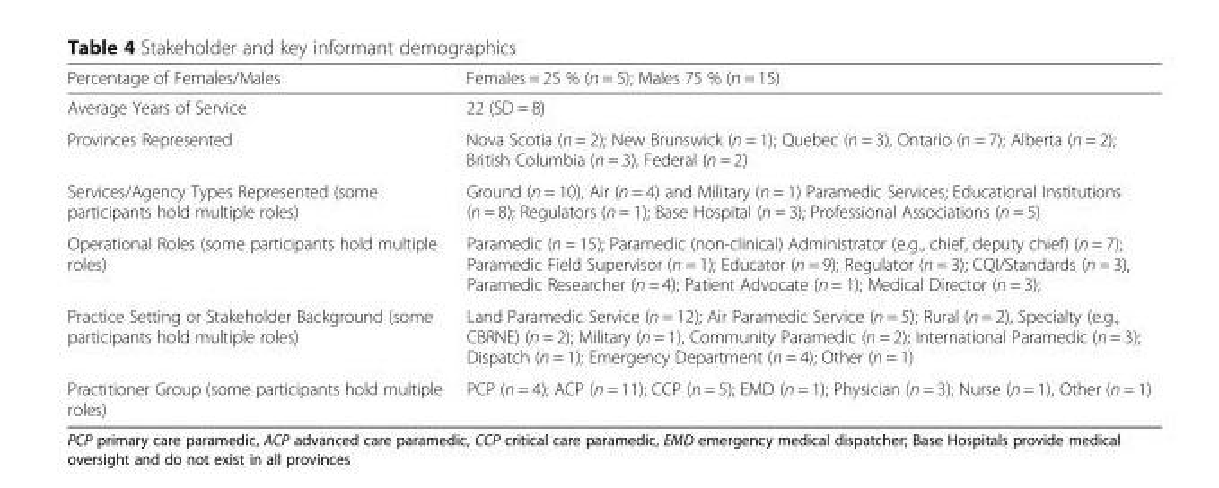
<table><thead><tr><td>Percentage of Females/Males</td><td>Females = 25 % (n = 5); Males 75 % (n = 15)</td></tr></thead><tbody><tr><td>Average Years of Service</td><td>22 (SD = 8)</td></tr><tr><td>Provinces Represented</td><td>Nova Scotia (n = 2); New Brunswick (n = 1); Quebec (n = 3), Ontario (n = 7); Alberta (n = 2); British Columbia (n = 3), Federal (n = 2)</td></tr><tr><td>Services/Agency Types Represented (some participants hold multiple roles)</td><td>Ground (n = 10), Air (n = 4) and Military (n = 1) Paramedic Services; Educational Institutions (n = 8); Regulators (n = 1); Base Hospital (n = 3); Professional Associations (n = 5)</td></tr><tr><td>Operational Roles (some participants hold multiple roles)</td><td>Paramedic (n = 15); Paramedic (non-clinical) Administrator (e.g., chief, deputy chief) (n = 7); Paramedic Field Supervisor (n = 1); Educator (n = 9); Regulator (n = 3); CQI/Standards (n = 3), Paramedic Researcher (n = 4); Patient Advocate (n = 1); Medical Director (n = 3);</td></tr><tr><td>Practice Setting or Stakeholder Background (some participants hold multiple roles)</td><td>Land Paramedic Service (n = 12); Air Paramedic Service (n = 5); Rural (n = 2), Specialty (e.g., CBRNE) (n = 2); Military (n = 1), Community Paramedic (n = 2); International Paramedic (n = 3); Dispatch (n = 1); Emergency Department (n = 4); Other (n = 1)</td></tr><tr><td>Practitioner Group (some participants hold multiple roles)</td><td>PCP (n = 4); ACP (n = 11); CCP (n = 5); EMD (n = 1); Physician (n = 3); Nurse (n = 1), Other (n = 1)</td></tr></tbody></table>